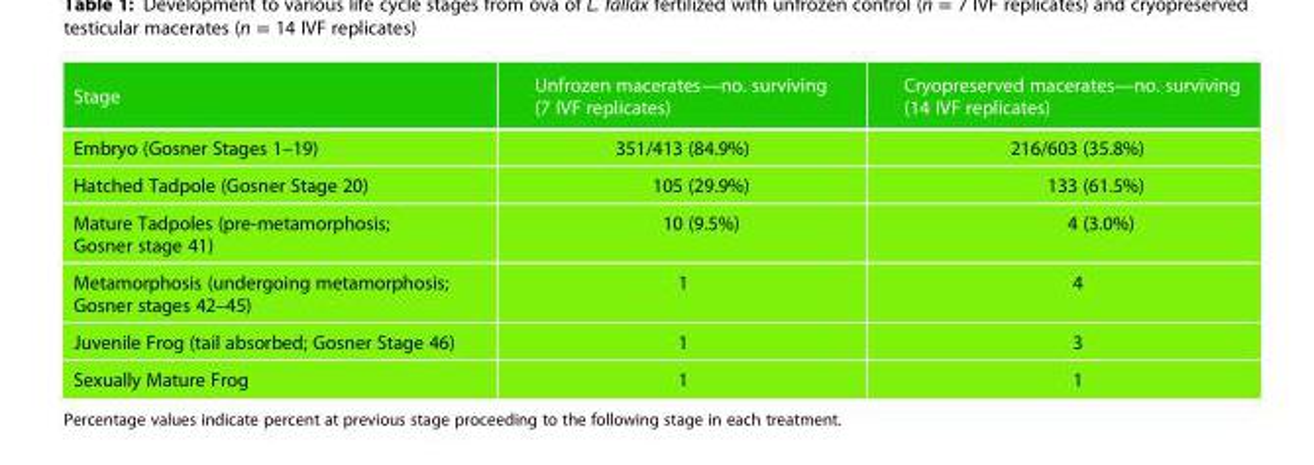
<table><thead><tr><td>Stage</td><td>Unfrozen macerates—no. surviving (7 IVF replicates)</td><td>Cryopreserved macerates—no. surviving (14 IVF replicates)</td></tr></thead><tbody><tr><td>Embryo (Gosner Stages 1–19)</td><td>351/413 (84.9%)</td><td>216/603 (35.8%)</td></tr><tr><td>Hatched Tadpole (Gosner Stage 20)</td><td>105 (29.9%)</td><td>133 (61.5%)</td></tr><tr><td>Mature Tadpoles (pre-metamorphosis; Gosner stage 41)</td><td>10 (9.5%)</td><td>4 (3.0%)</td></tr><tr><td>Metamorphosis (undergoing metamorphosis; Gosner stages 42–45)</td><td>1</td><td>4</td></tr><tr><td>Juvenile Frog (tail absorbed; Gosner Stage 46)</td><td>1</td><td>3</td></tr><tr><td>Sexually Mature Frog</td><td>1</td><td>1</td></tr></tbody></table>